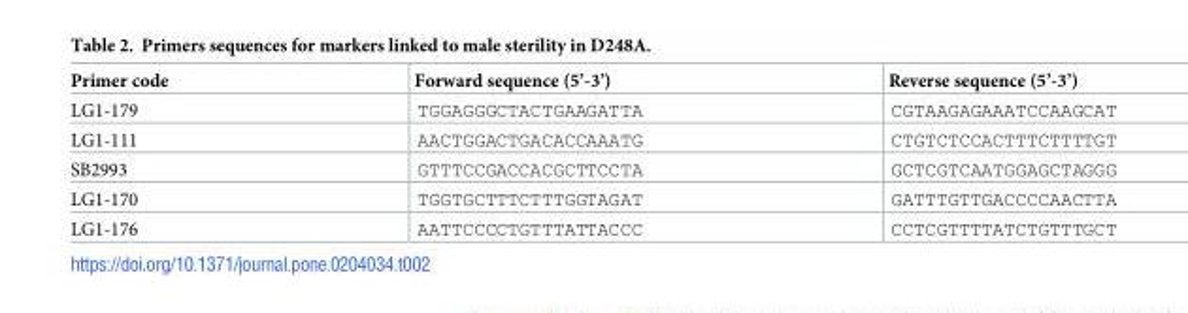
<table><thead><tr><td>Primer code</td><td>Forward sequence (5’-3’)</td><td>Reverse sequence (5’-3’)</td></tr></thead><tbody><tr><td>LG1-179</td><td>TGGAGGGCTACTGAAGATTA</td><td>CGTAAGAGAAATCCAAGCAT</td></tr><tr><td>LG1-111</td><td>AACTGGACTGACACCAAATG</td><td>CTGTCTCCACTTTCTTTTGT</td></tr><tr><td>SB2993</td><td>GTTTCCGACCACGCTTCCTA</td><td>GCTCGTCAATGGAGCTAGGG</td></tr><tr><td>LG1-170</td><td>TGGTGCTTTCTTTGGTAGAT</td><td>GATTTGTTGACCCCAACTTA</td></tr><tr><td>LG1-176</td><td>AATTCCCCTGTTTATTACCC</td><td>CCTCGTTTTATCTGTTTGCT</td></tr></tbody></table>